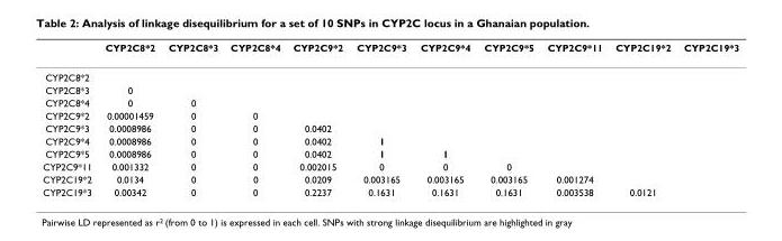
<table><thead><tr><td></td><td>CYP2C8*2</td><td>CYP2C8*3</td><td>CYP2C8*4</td><td>CYP2C9*2</td><td>CYP2C9*3</td><td>CYP2C9*4</td><td>CYP2C9*5</td><td>CYP2C9*11</td><td>CYP2C19*2</td><td>CYP2C19*3</td></tr></thead><tbody><tr><td colspan="11">CYP2C8*2</td></tr><tr><td>CYP2C8*3</td><td>0</td><td></td><td></td><td></td><td></td><td></td><td></td><td></td><td></td><td></td></tr><tr><td>CYP2C8*4</td><td>0</td><td>0</td><td></td><td></td><td></td><td></td><td></td><td></td><td></td><td></td></tr><tr><td>CYP2C9*2</td><td>0.00001459</td><td>0</td><td>0</td><td></td><td></td><td></td><td></td><td></td><td></td><td></td></tr><tr><td>CYP2C9*3</td><td>0.0008986</td><td>0</td><td>0</td><td>0.0402</td><td></td><td></td><td></td><td></td><td></td><td></td></tr><tr><td>CYP2C9*4</td><td>0.0008986</td><td>0</td><td>0</td><td>0.0402</td><td>1</td><td></td><td></td><td></td><td></td><td></td></tr><tr><td>CYP2C9*5</td><td>0.0008986</td><td>0</td><td>0</td><td>0.0402</td><td>1</td><td>1</td><td></td><td></td><td></td><td></td></tr><tr><td>CYP2C9*11</td><td>0.001332</td><td>0</td><td>0</td><td>0.002015</td><td>0</td><td>0</td><td>0</td><td></td><td></td><td></td></tr><tr><td>CYP2C19*2</td><td>0.0134</td><td>0</td><td>0</td><td>0.0209</td><td>0.003165</td><td>0.003165</td><td>0.003165</td><td>0.001274</td><td></td><td></td></tr><tr><td>CYP2C19*3</td><td>0.00342</td><td>0</td><td>0</td><td>0.2237</td><td>0.1631</td><td>0.1631</td><td>0.1631</td><td>0.003538</td><td>0.0121</td><td></td></tr></tbody></table>